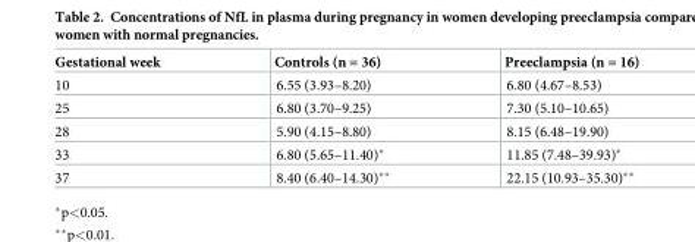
<table><thead><tr><td>Gestational week</td><td>Controls (n = 36)</td><td>Preeclampsia (n = 16)</td></tr></thead><tbody><tr><td>10</td><td>6.55 (3.93–8.20)</td><td>6.80 (4.67–8.53)</td></tr><tr><td>25</td><td>6.80 (3.70–9.25)</td><td>7.30 (5.10–10.65)</td></tr><tr><td>28</td><td>5.90 (4.15–8.80)</td><td>8.15 (6.48–19.90)</td></tr><tr><td>33</td><td>6.80 (5.65–11.40)*</td><td>11.85 (7.48–39.93)*</td></tr><tr><td>37</td><td>8.40 (6.40–14.30)**</td><td>22.15 (10.93–35.30)**</td></tr></tbody></table>